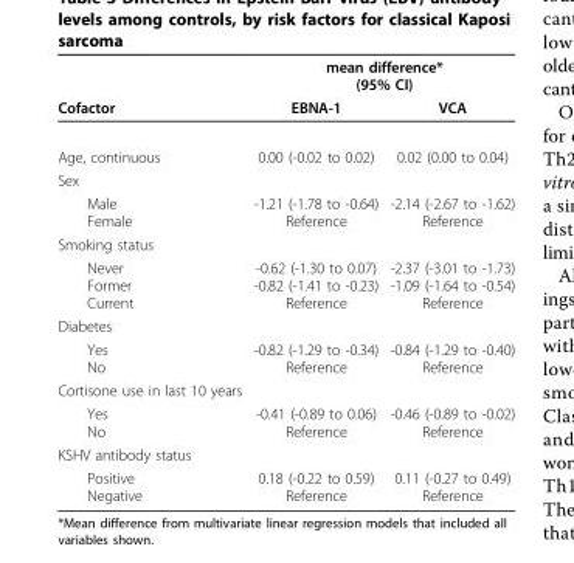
<table><thead><tr><td rowspan="2">Cofactor</td><td colspan="2">mean difference* (95% CI)</td></tr><tr><td>EBNA-1</td><td>VCA</td></tr></thead><tbody><tr><td>Age, continuous</td><td>0.00 (-0.02 to 0.02)</td><td>0.02 (0.00 to 0.04)</td></tr><tr><td colspan="3">Sex</td></tr><tr><td>Male Female</td><td>-1.21 (-1.78 to -0.64) Reference</td><td>-2.14 (-2.67 to -1.62) Reference</td></tr><tr><td colspan="3">Smoking status</td></tr><tr><td>Never Former Current</td><td>-0.62 (-1.30 to 0.07) -0.82 (-1.41 to -0.23) Reference</td><td>-2.37 (-3.01 to -1.73) -1.09 (-1.64 to -0.54) Reference</td></tr><tr><td colspan="3">Diabetes</td></tr><tr><td>Yes No</td><td>-0.82 (-1.29 to -0.34) Reference</td><td>-0.84 (-1.29 to -0.40) Reference</td></tr><tr><td colspan="3">Cortisone use in last 10 years</td></tr><tr><td>Yes No</td><td>-0.41 (-0.89 to 0.06) Reference</td><td>-0.46 (-0.89 to -0.02) Reference</td></tr><tr><td colspan="3">KSHV antibody status</td></tr><tr><td>Positive Negative</td><td>0.18 (-0.22 to 0.59) Reference</td><td>0.11 (-0.27 to 0.49) Reference</td></tr></tbody></table>